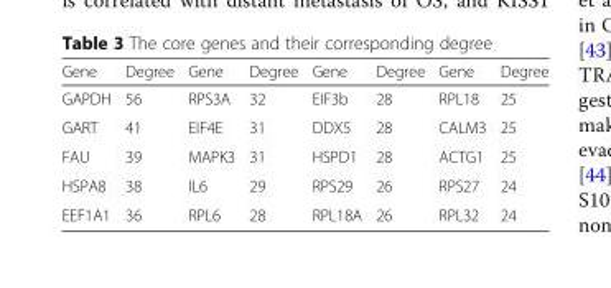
<table><thead><tr><td>Gene</td><td>Degree</td><td>Gene</td><td>Degree</td><td>Gene</td><td>Degree</td><td>Gene</td><td>Degree</td></tr></thead><tbody><tr><td>GAPDH</td><td>56</td><td>RPS3A</td><td>32</td><td>EIF3b</td><td>28</td><td>RPL18</td><td>25</td></tr><tr><td>GART</td><td>41</td><td>EIF4E</td><td>31</td><td>DDX5</td><td>28</td><td>CALM3</td><td>25</td></tr><tr><td>FAU</td><td>39</td><td>MAPK3</td><td>31</td><td>HSPD1</td><td>28</td><td>ACTG1</td><td>25</td></tr><tr><td>HSPA8</td><td>38</td><td>IL6</td><td>29</td><td>RPS29</td><td>26</td><td>RPS27</td><td>24</td></tr><tr><td>EEF1A1</td><td>36</td><td>RPL6</td><td>28</td><td>RPL18A</td><td>26</td><td>RPL32</td><td>24</td></tr></tbody></table>